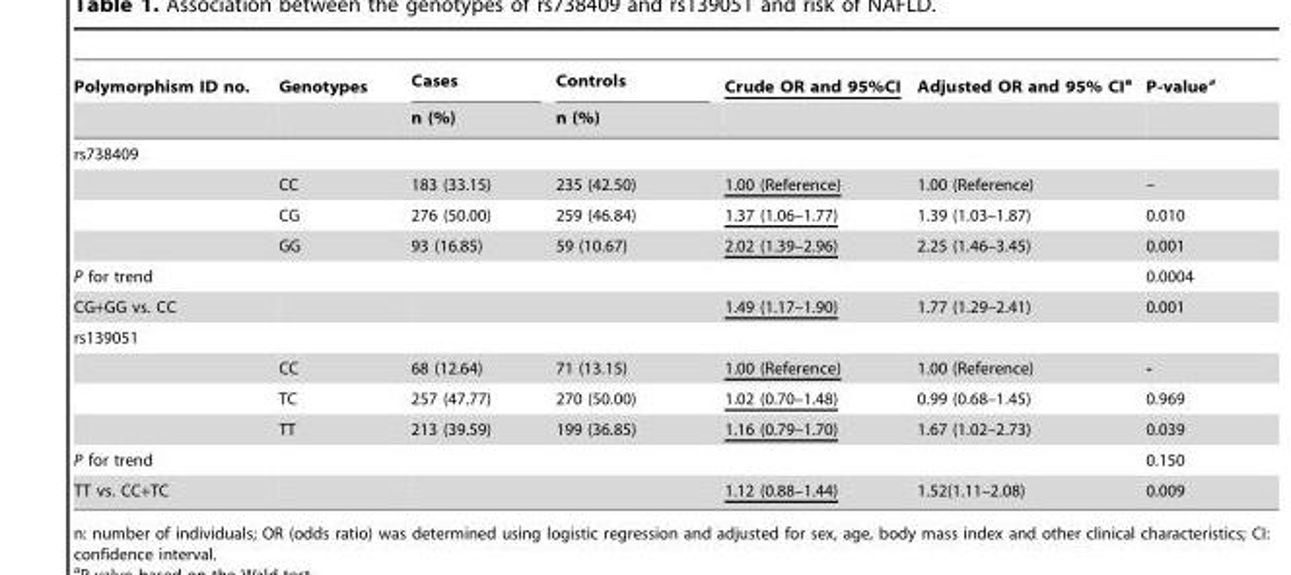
<table><thead><tr><td rowspan="2">Polymorphism ID no.</td><td rowspan="2">Genotypes</td><td rowspan="2">Cases n (%)</td><td rowspan="2">Controls n (%)</td><td rowspan="2">Crude OR and 95%CI</td><td rowspan="2">Adjusted OR and 95% CI<sup>a</sup></td><td rowspan="2">P-value<sup>a</sup></td></tr><tr></tr></thead><tbody><tr><td colspan="7">rs738409</td></tr><tr><td></td><td>CC</td><td>183 (33.15)</td><td>235 (42.50)</td><td>1.00 (Reference)</td><td>1.00 (Reference)</td><td>–</td></tr><tr><td></td><td>CG</td><td>276 (50.00)</td><td>259 (46.84)</td><td>1.37 (1.06–1.77)</td><td>1.39 (1.03–1.87)</td><td>0.010</td></tr><tr><td></td><td>GG</td><td>93 (16.85)</td><td>59 (10.67)</td><td>2.02 (1.39–2.96)</td><td>2.25 (1.46–3.45)</td><td>0.001</td></tr><tr><td>P for trend</td><td></td><td></td><td></td><td></td><td></td><td>0.0004</td></tr><tr><td>CG+GG vs. CC</td><td></td><td></td><td></td><td>1.49 (1.17–1.90)</td><td>1.77 (1.29–2.41)</td><td>0.001</td></tr><tr><td colspan="7">rs139051</td></tr><tr><td></td><td>CC</td><td>68 (12.64)</td><td>71 (13.15)</td><td>1.00 (Reference)</td><td>1.00 (Reference)</td><td>-</td></tr><tr><td></td><td>TC</td><td>257 (47.77)</td><td>270 (50.00)</td><td>1.02 (0.70–1.48)</td><td>0.99 (0.68–1.45)</td><td>0.969</td></tr><tr><td></td><td>TT</td><td>213 (39.59)</td><td>199 (36.85)</td><td>1.16 (0.79–1.70)</td><td>1.67 (1.02–2.73)</td><td>0.039</td></tr><tr><td>P for trend</td><td></td><td></td><td></td><td></td><td></td><td>0.150</td></tr><tr><td>TT vs. CC+TC</td><td></td><td></td><td></td><td>1.12 (0.88–1.44)</td><td>1.52(1.11–2.08)</td><td>0.009</td></tr></tbody></table>